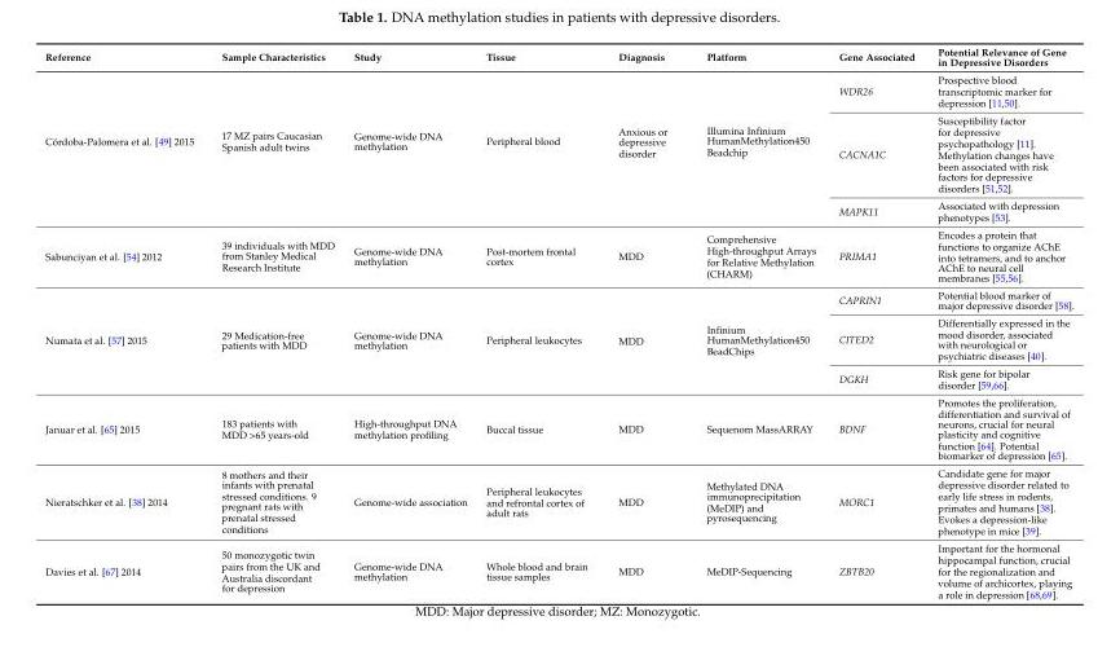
<table><thead><tr><td>Reference</td><td>Sample Characteristics</td><td>Study</td><td>Tissue</td><td>Diagnosis</td><td>Platform</td><td>Gene Associated</td><td>Potential Relevance of Gene in Depressive Disorders</td></tr></thead><tbody><tr><td rowspan="3">Córdoba-Palomera et al. [49] 2015</td><td rowspan="3">17 MZ pairs Caucasian Spanish adult twins</td><td rowspan="3">Genome-wide DNA methylation</td><td rowspan="3">Peripheral blood</td><td rowspan="3">Anxious or depressive disorder</td><td rowspan="3">Illumina Infinium HumanMethylation450 Beadchip</td><td>WDR26</td><td>Prospective blood transcriptomic marker for depression [11,50].</td></tr><tr><td>CACNA1C</td><td>Susceptibility factor for depressive psychopathology [11]. Methylation changes have been associated with risk factors for depressive disorders [51,52].</td></tr><tr><td>MAPK11</td><td>Associated with depression phenotypes [53].</td></tr><tr><td>Sabunciyan et al. [54] 2012</td><td>39 individuals with MDD from Stanley Medical Research Institute</td><td>Genome-wide DNA methylation</td><td>Post-mortem frontal cortex</td><td>MDD</td><td>Comprehensive High-throughput Arrays for Relative Methylation (CHARM)</td><td>PRIMA1</td><td>Encodes a protein that functions to organize AChE into tetramers, and to anchor AChE to neural cell membranes [55,56].</td></tr><tr><td rowspan="3">Numata et al. [57] 2015</td><td rowspan="3">29 Medication-free patients with MDD</td><td rowspan="3">Genome-wide DNA methylation</td><td rowspan="3">Peripheral leukocytes</td><td rowspan="3">MDD</td><td rowspan="3">Infinium HumanMethylation450 BeadChips</td><td>CAPRIN1</td><td>Potential blood marker of major depressive disorder [58].</td></tr><tr><td>CITED2</td><td>Differentially expressed in the mood disorder, associated with neurological or psychiatric diseases [40].</td></tr><tr><td>DGKH</td><td>Risk gene for bipolar disorder [59,66].</td></tr><tr><td>Januar et al. [65] 2015</td><td>183 patients with MDD &gt;65 years-old</td><td>High-throughput DNA methylation profiling</td><td>Buccal tissue</td><td>MDD</td><td>Sequenom MassARRAY</td><td>BDNF</td><td>Promotes the proliferation, differentiation and survival of neurons, crucial for neural plasticity and cognitive function [64]. Potential biomarker of depression [65].</td></tr><tr><td>Nieratschker et al. [38] 2014</td><td>8 mothers and their infants with prenatal stressed conditions. 9 pregnant rats with prenatal stressed conditions</td><td>Genome-wide association</td><td>Peripheral leukocytes and refrontal cortex of adult rats</td><td>MDD</td><td>Methylated DNA immunoprecipitation (MeDIP) and pyrosequencing</td><td>MORC1</td><td>Candidate gene for major depressive disorder related to early life stress in rodents, primates and humans [38]. Evokes a depression-like phenotype in mice [39].</td></tr><tr><td>Davies et al. [67] 2014</td><td>50 monozygotic twin pairs from the UK and Australia discordant for depression</td><td>Genome-wide DNA methylation</td><td>Whole blood and brain tissue samples</td><td>MDD</td><td>MeDIP-Sequencing</td><td>ZBTB20</td><td>Important for the hormonal hippocampal function, crucial for the regionalization and volume of archicortex, playing a role in depression [68,69].</td></tr></tbody></table>